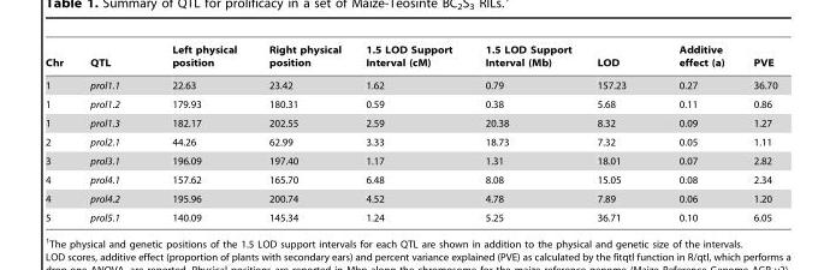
<table><thead><tr><td>Chr</td><td>QTL</td><td>Left physical position</td><td>Right physical position</td><td>1.5 LOD Support Interval (cM)</td><td>1.5 LOD Support Interval (Mb)</td><td>LOD</td><td>Additive effect (a)</td><td>PVE</td></tr></thead><tbody><tr><td>1</td><td>prol1.1</td><td>22.63</td><td>23.42</td><td>1.62</td><td>0.79</td><td>157.23</td><td>0.27</td><td>36.70</td></tr><tr><td>1</td><td>prol1.2</td><td>179.93</td><td>180.31</td><td>0.59</td><td>0.38</td><td>5.68</td><td>0.11</td><td>0.86</td></tr><tr><td>1</td><td>prol1.3</td><td>182.17</td><td>202.55</td><td>2.59</td><td>20.38</td><td>8.32</td><td>0.09</td><td>1.27</td></tr><tr><td>2</td><td>prol2.1</td><td>44.26</td><td>62.99</td><td>3.33</td><td>18.73</td><td>7.32</td><td>0.05</td><td>1.11</td></tr><tr><td>3</td><td>prol3.1</td><td>196.09</td><td>197.40</td><td>1.17</td><td>1.31</td><td>18.01</td><td>0.07</td><td>2.82</td></tr><tr><td>4</td><td>prol4.1</td><td>157.62</td><td>165.70</td><td>6.48</td><td>8.08</td><td>15.05</td><td>0.08</td><td>2.34</td></tr><tr><td>4</td><td>prol4.2</td><td>195.96</td><td>200.74</td><td>4.52</td><td>4.78</td><td>7.89</td><td>0.06</td><td>1.20</td></tr><tr><td>5</td><td>prol5.1</td><td>140.09</td><td>145.34</td><td>1.24</td><td>5.25</td><td>36.71</td><td>0.10</td><td>6.05</td></tr></tbody></table>